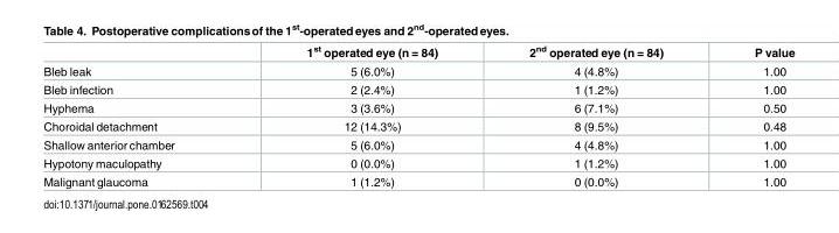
<table><thead><tr><td></td><td>1<sup>st</sup> operated eye (n = 84)</td><td>2<sup>nd</sup> operated eye (n = 84)</td><td>P value</td></tr></thead><tbody><tr><td>Bleb leak</td><td>5 (6.0%)</td><td>4 (4.8%)</td><td>1.00</td></tr><tr><td>Bleb infection</td><td>2 (2.4%)</td><td>1 (1.2%)</td><td>1.00</td></tr><tr><td>Hyphema</td><td>3 (3.6%)</td><td>6 (7.1%)</td><td>0.50</td></tr><tr><td>Choroidal detachment</td><td>12 (14.3%)</td><td>8 (9.5%)</td><td>0.48</td></tr><tr><td>Shallow anterior chamber</td><td>5 (6.0%)</td><td>4 (4.8%)</td><td>1.00</td></tr><tr><td>Hypotony maculopathy</td><td>0 (0.0%)</td><td>1 (1.2%)</td><td>1.00</td></tr><tr><td>Malignant glaucoma</td><td>1 (1.2%)</td><td>0 (0.0%)</td><td>1.00</td></tr></tbody></table>